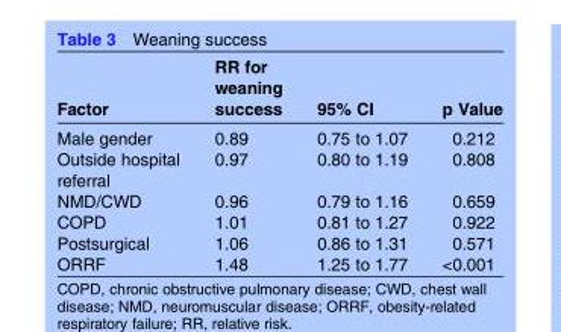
<table><thead><tr><td>Factor</td><td>RR for weaning success</td><td>95% CI</td><td>p Value</td></tr></thead><tbody><tr><td>Male gender</td><td>0.89</td><td>0.75 to 1.07</td><td>0.212</td></tr><tr><td>Outside hospital referral</td><td>0.97</td><td>0.80 to 1.19</td><td>0.808</td></tr><tr><td>NMD/CWD</td><td>0.96</td><td>0.79 to 1.16</td><td>0.659</td></tr><tr><td>COPD</td><td>1.01</td><td>0.81 to 1.27</td><td>0.922</td></tr><tr><td>Postsurgical</td><td>1.06</td><td>0.86 to 1.31</td><td>0.571</td></tr><tr><td>ORRF</td><td>1.48</td><td>1.25 to 1.77</td><td>&lt;0.001</td></tr></tbody></table>